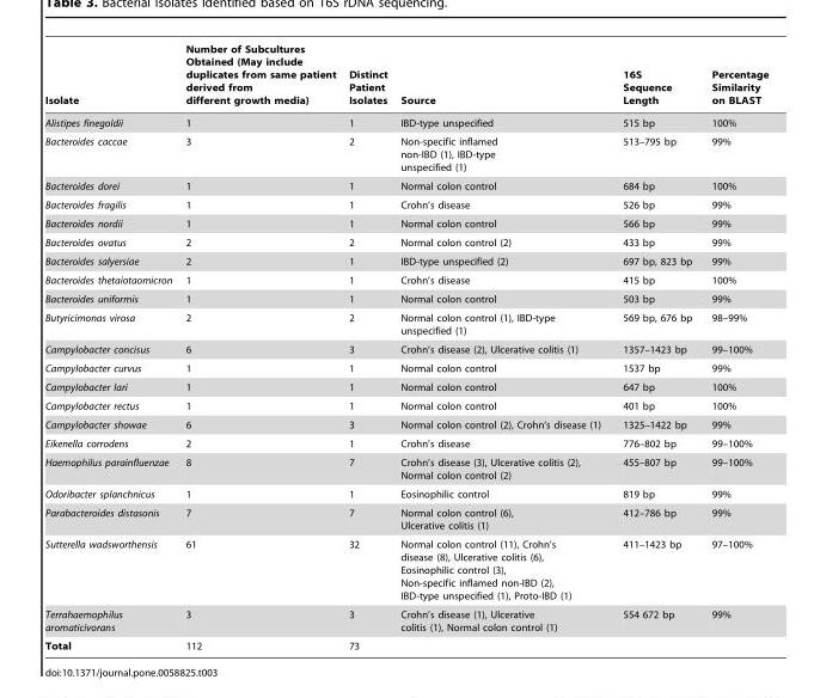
<table><thead><tr><td>Isolate</td><td>Number of Subcultures Obtained (May include duplicates from same patient derived from different growth media)</td><td>Distinct Patient Isolates</td><td>Source</td><td>16S Sequence Length</td><td>Percentage Similarity on BLAST</td></tr></thead><tbody><tr><td>Alistipes finegoldii</td><td>1</td><td>1</td><td>IBD-type unspecified</td><td>515 bp</td><td>100%</td></tr><tr><td>Bacteroides caccae</td><td>3</td><td>2</td><td>Non-specific inflamed non-IBD (1), IBD-type unspecified (1)</td><td>513–795 bp</td><td>99%</td></tr><tr><td>Bacteroides dorei</td><td>1</td><td>1</td><td>Normal colon control</td><td>684 bp</td><td>100%</td></tr><tr><td>Bacteroides fragilis</td><td>1</td><td>1</td><td>Crohn’s disease</td><td>526 bp</td><td>99%</td></tr><tr><td>Bacteroides nordii</td><td>1</td><td>1</td><td>Normal colon control</td><td>566 bp</td><td>99%</td></tr><tr><td>Bacteroides ovatus</td><td>2</td><td>2</td><td>Normal colon control (2)</td><td>433 bp</td><td>99%</td></tr><tr><td>Bacteroides salyersiae</td><td>2</td><td>1</td><td>IBD-type unspecified (2)</td><td>697 bp, 823 bp</td><td>99%</td></tr><tr><td>Bacteroides thetaiotaomicron</td><td>1</td><td>1</td><td>Crohn’s disease</td><td>415 bp</td><td>100%</td></tr><tr><td>Bacteroides uniformis</td><td>1</td><td>1</td><td>Normal colon control</td><td>503 bp</td><td>99%</td></tr><tr><td>Butyricimonas virosa</td><td>2</td><td>2</td><td>Normal colon control (1), IBD-type unspecified (1)</td><td>569 bp, 676 bp</td><td>98–99%</td></tr><tr><td>Campylobacter concisus</td><td>6</td><td>3</td><td>Crohn’s disease (2), Ulcerative colitis (1)</td><td>1357–1423 bp</td><td>99–100%</td></tr><tr><td>Campylobacter curvus</td><td>1</td><td>1</td><td>Normal colon control</td><td>1537 bp</td><td>99%</td></tr><tr><td>Campylobacter lari</td><td>1</td><td>1</td><td>Normal colon control</td><td>647 bp</td><td>100%</td></tr><tr><td>Campylobacter rectus</td><td>1</td><td>1</td><td>Normal colon control</td><td>401 bp</td><td>100%</td></tr><tr><td>Campylobacter showae</td><td>6</td><td>3</td><td>Normal colon control (2), Crohn’s disease (1)</td><td>1325–1422 bp</td><td>99%</td></tr><tr><td>Eikenella corrodens</td><td>2</td><td>1</td><td>Crohn’s disease</td><td>776–802 bp</td><td>99–100%</td></tr><tr><td>Haemophilus parainfluenzae</td><td>8</td><td>7</td><td>Crohn’s disease (3), Ulcerative colitis (2), Normal colon control (2)</td><td>455–807 bp</td><td>99–100%</td></tr><tr><td>Odoribacter splanchnicus</td><td>1</td><td>1</td><td>Eosinophilic control</td><td>819 bp</td><td>99%</td></tr><tr><td>Parabacteroides distasonis</td><td>7</td><td>7</td><td>Normal colon control (6), Ulcerative colitis (1)</td><td>412–786 bp</td><td>99%</td></tr><tr><td>Sutterella wadsworthensis</td><td>61</td><td>32</td><td>Normal colon control (11), Crohn’s disease (8), Ulcerative colitis (6), Eosinophilic control (3), Non-specific inflamed non-IBD (2), IBD-type unspecified (1), Proto-IBD (1)</td><td>411–1423 bp</td><td>97–100%</td></tr><tr><td>Terrahaemophilus aromaticivorans</td><td>3</td><td>3</td><td>Crohn’s disease (1), Ulcerative colitis (1), Normal colon control (1)</td><td>554 672 bp</td><td>99%</td></tr><tr><td>Total</td><td>112</td><td>73</td><td></td><td></td><td></td></tr></tbody></table>